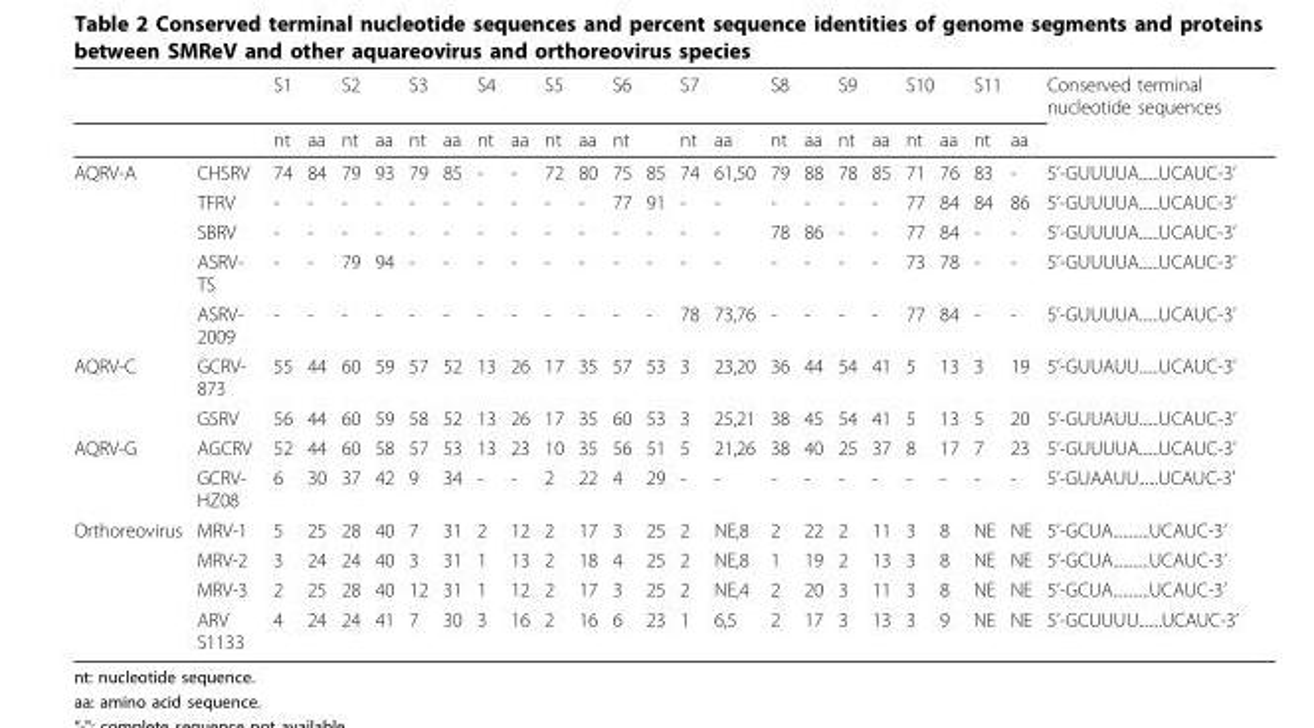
<table><thead><tr><td rowspan="2"></td><td rowspan="2"></td><td colspan="2">S1</td><td colspan="2">S2</td><td colspan="2">S3</td><td colspan="2">S4</td><td colspan="2">S5</td><td colspan="2">S6</td><td colspan="2">S7</td><td colspan="2">S8</td><td colspan="2">S9</td><td colspan="2">S10</td><td colspan="2">S11</td><td rowspan="2">Conserved terminal nucleotide sequences</td></tr><tr><td>nt</td><td>aa</td><td>nt</td><td>aa</td><td>nt</td><td>aa</td><td>nt</td><td>aa</td><td>nt</td><td>aa</td><td>nt</td><td></td><td>nt</td><td>aa</td><td>nt</td><td>aa</td><td>nt</td><td>aa</td><td>nt</td><td>aa</td><td>nt</td><td>aa</td></tr></thead><tbody><tr><td rowspan="5">AQRV-A</td><td>CHSRV</td><td>74</td><td>84</td><td>79</td><td>93</td><td>79</td><td>85</td><td>-</td><td>-</td><td>72</td><td>80</td><td>75</td><td>85</td><td>74</td><td>61,50</td><td>79</td><td>88</td><td>78</td><td>85</td><td>71</td><td>76</td><td>83</td><td>-</td><td>5’-GUUUUA......UCAUC-3’</td></tr><tr><td>TFRV</td><td>-</td><td>-</td><td>-</td><td>-</td><td>-</td><td>-</td><td>-</td><td>-</td><td>-</td><td>-</td><td>77</td><td>91</td><td>-</td><td>-</td><td>-</td><td>-</td><td>-</td><td>-</td><td>77</td><td>84</td><td>84</td><td>86</td><td>5’-GUUUUA......UCAUC-3’</td></tr><tr><td>SBRV</td><td>-</td><td>-</td><td>-</td><td>-</td><td>-</td><td>-</td><td>-</td><td>-</td><td>-</td><td>-</td><td>-</td><td>-</td><td>-</td><td>-</td><td>78</td><td>86</td><td>-</td><td>-</td><td>77</td><td>84</td><td>-</td><td>-</td><td>5’-GUUUUA......UCAUC-3’</td></tr><tr><td>ASRV- TS</td><td>-</td><td>-</td><td>79</td><td>94</td><td>-</td><td>-</td><td>-</td><td>-</td><td>-</td><td>-</td><td>-</td><td>-</td><td>-</td><td>-</td><td>-</td><td>-</td><td>-</td><td>-</td><td>73</td><td>78</td><td>-</td><td>-</td><td>5’-GUUUUA......UCAUC-3’</td></tr><tr><td>ASRV- 2009</td><td>-</td><td>-</td><td>-</td><td>-</td><td>-</td><td>-</td><td>-</td><td>-</td><td>-</td><td>-</td><td>-</td><td>-</td><td>78</td><td>73,76</td><td>-</td><td>-</td><td>-</td><td>-</td><td>77</td><td>84</td><td>-</td><td>-</td><td>5’-GUUUUA......UCAUC-3’</td></tr><tr><td rowspan="2">AQRV-C</td><td>GCRV- 873</td><td>55</td><td>44</td><td>60</td><td>59</td><td>57</td><td>52</td><td>13</td><td>26</td><td>17</td><td>35</td><td>57</td><td>53</td><td>3</td><td>23,20</td><td>36</td><td>44</td><td>54</td><td>41</td><td>5</td><td>13</td><td>3</td><td>19</td><td>5’-GUUAUU......UCAUC-3’</td></tr><tr><td>GSRV</td><td>56</td><td>44</td><td>60</td><td>59</td><td>58</td><td>52</td><td>13</td><td>26</td><td>17</td><td>35</td><td>60</td><td>53</td><td>3</td><td>25,21</td><td>38</td><td>45</td><td>54</td><td>41</td><td>5</td><td>13</td><td>5</td><td>20</td><td>5’-GUUAUU......UCAUC-3’</td></tr><tr><td rowspan="2">AQRV-G</td><td>AGCRV</td><td>52</td><td>44</td><td>60</td><td>58</td><td>57</td><td>53</td><td>13</td><td>23</td><td>10</td><td>35</td><td>56</td><td>51</td><td>5</td><td>21,26</td><td>38</td><td>40</td><td>25</td><td>37</td><td>8</td><td>17</td><td>7</td><td>23</td><td>5’-GUUUUA......UCAUC-3’</td></tr><tr><td>GCRV- HZ08</td><td>6</td><td>30</td><td>37</td><td>42</td><td>9</td><td>34</td><td>-</td><td>-</td><td>2</td><td>22</td><td>4</td><td>29</td><td>-</td><td>-</td><td>-</td><td>-</td><td>-</td><td>-</td><td>-</td><td>-</td><td>-</td><td>-</td><td>5’-GUAAUU......UCAUC-3’</td></tr><tr><td rowspan="4">Orthoreovirus</td><td>MRV-1</td><td>5</td><td>25</td><td>28</td><td>40</td><td>7</td><td>31</td><td>2</td><td>12</td><td>2</td><td>17</td><td>3</td><td>25</td><td>2</td><td>NE,8</td><td>2</td><td>22</td><td>2</td><td>11</td><td>3</td><td>8</td><td>NE</td><td>NE</td><td>5’-GCUA...........UCAUC-3’</td></tr><tr><td>MRV-2</td><td>3</td><td>24</td><td>24</td><td>40</td><td>3</td><td>31</td><td>1</td><td>13</td><td>2</td><td>18</td><td>4</td><td>25</td><td>2</td><td>NE,8</td><td>1</td><td>19</td><td>2</td><td>13</td><td>3</td><td>8</td><td>NE</td><td>NE</td><td>5’-GCUA...........UCAUC-3’</td></tr><tr><td>MRV-3</td><td>2</td><td>25</td><td>28</td><td>40</td><td>12</td><td>31</td><td>1</td><td>12</td><td>2</td><td>17</td><td>3</td><td>25</td><td>2</td><td>NE,4</td><td>2</td><td>20</td><td>3</td><td>11</td><td>3</td><td>8</td><td>NE</td><td>NE</td><td>5’-GCUA...........UCAUC-3’</td></tr><tr><td>ARV S1133</td><td>4</td><td>24</td><td>24</td><td>41</td><td>7</td><td>30</td><td>3</td><td>16</td><td>2</td><td>16</td><td>6</td><td>23</td><td>1</td><td>6,5</td><td>2</td><td>17</td><td>3</td><td>13</td><td>3</td><td>9</td><td>NE</td><td>NE</td><td>5’-GCUUUU.......UCAUC-3’</td></tr></tbody></table>